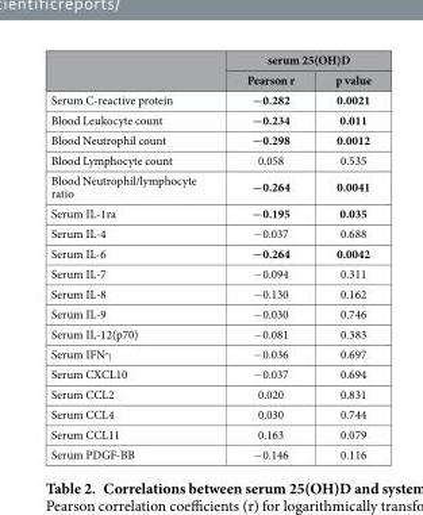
<table><thead><tr><td rowspan="2"></td><td colspan="2">serum 25(OH)D</td></tr><tr><td>Pearson r</td><td>p value</td></tr></thead><tbody><tr><td>Serum C-reactive protein</td><td>−0.282</td><td>0.0021</td></tr><tr><td>Blood Leukocyte count</td><td>−0.234</td><td>0.011</td></tr><tr><td>Blood Neutrophil count</td><td>−0.298</td><td>0.0012</td></tr><tr><td>Blood Lymphocyte count</td><td>0.058</td><td>0.535</td></tr><tr><td>Blood Neutrophil/lymphocyte ratio</td><td>−0.264</td><td>0.0041</td></tr><tr><td>Serum IL-1ra</td><td>−0.195</td><td>0.035</td></tr><tr><td>Serum IL-4</td><td>− 0.037</td><td>0.688</td></tr><tr><td>Serum IL-6</td><td>−0.264</td><td>0.0042</td></tr><tr><td>Serum IL-7</td><td>− 0.094</td><td>0.311</td></tr><tr><td>Serum IL-8</td><td>− 0.130</td><td>0.162</td></tr><tr><td>Serum IL-9</td><td>− 0.030</td><td>0.746</td></tr><tr><td>Serum IL-12(p70)</td><td>− 0.081</td><td>0.383</td></tr><tr><td>Serum IFNγ</td><td>− 0.036</td><td>0.697</td></tr><tr><td>Serum CXCL10</td><td>− 0.037</td><td>0.694</td></tr><tr><td>Serum CCL2</td><td>0.020</td><td>0.831</td></tr><tr><td>Serum CCL4</td><td>0.030</td><td>0.744</td></tr><tr><td>Serum CCL11</td><td>0.163</td><td>0.079</td></tr><tr><td>Serum PDGF-BB</td><td>− 0.146</td><td>0.116</td></tr></tbody></table>